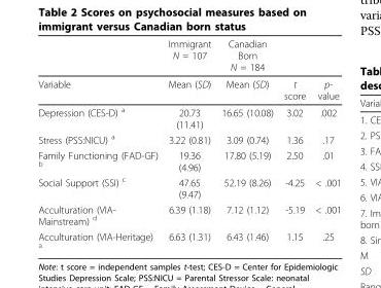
<table><thead><tr><td></td><td>Immigrant N = 107</td><td>Canadian Born N = 184</td><td></td><td></td></tr></thead><tbody><tr><td>Variable</td><td>Mean (SD)</td><td>Mean (SD)</td><td>t score</td><td>p- value</td></tr><tr><td>Depression (CES-D) <sup>a</sup></td><td>20.73 (11.41)</td><td>16.65 (10.08)</td><td>3.02</td><td>.002</td></tr><tr><td>Stress (PSS:NICU) <sup>a</sup></td><td>3.22 (0.81)</td><td>3.09 (0.74)</td><td>1.36</td><td>.17</td></tr><tr><td>Family Functioning (FAD-GF) <sup>b</sup></td><td>19.36 (4.96)</td><td>17.80 (5.19)</td><td>2.50</td><td>.01</td></tr><tr><td>Social Support (SSI) <sup>c</sup></td><td>47.65 (9.47)</td><td>52.19 (8.26)</td><td>-4.25</td><td>&lt; .001</td></tr><tr><td>Acculturation (VIA- Mainstream) <sup>d</sup></td><td>6.39 (1.18)</td><td>7.12 (1.12)</td><td>-5.19</td><td>&lt; .001</td></tr><tr><td>Acculturation (VIA-Heritage) <sup>a</sup></td><td>6.63 (1.31)</td><td>6.43 (1.46)</td><td>1.15</td><td>.25</td></tr></tbody></table>